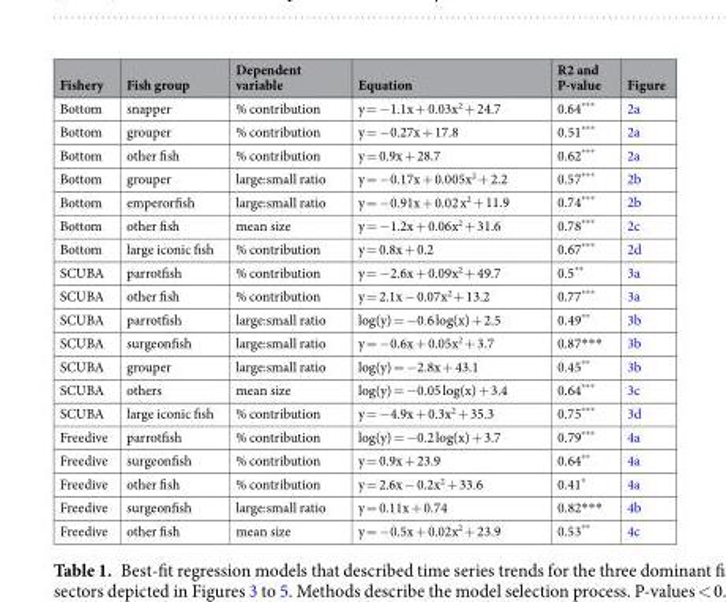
<table><thead><tr><td>Fishery</td><td>Fish group</td><td>Dependent variable</td><td>Equation</td><td>R2 and P-value</td><td>Figure</td></tr></thead><tbody><tr><td>Bottom</td><td>snapper</td><td>% contribution</td><td>y = −1.1x + 0.03x<sup>2</sup> + 24.7</td><td>0.64***</td><td>2a</td></tr><tr><td>Bottom</td><td>grouper</td><td>% contribution</td><td>y = −0.27x + 17.8</td><td>0.51***</td><td>2a</td></tr><tr><td>Bottom</td><td>other fish</td><td>% contribution</td><td>y = 0.9x + 28.7</td><td>0.62***</td><td>2a</td></tr><tr><td>Bottom</td><td>grouper</td><td>large:small ratio</td><td>y = −0.17x + 0.005x<sup>2</sup> + 2.2</td><td>0.57***</td><td>2b</td></tr><tr><td>Bottom</td><td>emperorfish</td><td>large:small ratio</td><td>y = −0.91x + 0.02 x<sup>2</sup> + 11.9</td><td>0.74***</td><td>2b</td></tr><tr><td>Bottom</td><td>other fish</td><td>mean size</td><td>y = −1.2x + 0.06x<sup>2</sup> + 31.6</td><td>0.78***</td><td>2c</td></tr><tr><td>Bottom</td><td>large iconic fish</td><td>% contribution</td><td>y = 0.8x + 0.2</td><td>0.67***</td><td>2d</td></tr><tr><td>SCUBA</td><td>parrotfish</td><td>% contribution</td><td>y = −2.6x + 0.09x<sup>2</sup> + 49.7</td><td>0.5**</td><td>3a</td></tr><tr><td>SCUBA</td><td>other fish</td><td>% contribution</td><td>y = 2.1x − 0.07x<sup>2</sup> + 13.2</td><td>0.77***</td><td>3a</td></tr><tr><td>SCUBA</td><td>parrotfish</td><td>large:small ratio</td><td>log(y) = −0.6 log(x) + 2.5</td><td>0.49**</td><td>3b</td></tr><tr><td>SCUBA</td><td>surgeonfish</td><td>large:small ratio</td><td>y = −0.6x + 0.05x<sup>2</sup> + 3.7</td><td>0.87***</td><td>3b</td></tr><tr><td>SCUBA</td><td>grouper</td><td>large:small ratio</td><td>log(y) = −2.8x + 43.1</td><td>0.45**</td><td>3b</td></tr><tr><td>SCUBA</td><td>others</td><td>mean size</td><td>log(y) = −0.05 log(x) + 3.4</td><td>0.64***</td><td>3c</td></tr><tr><td>SCUBA</td><td>large iconic fish</td><td>% contribution</td><td>y = −4.9x + 0.3x<sup>2</sup> + 35.3</td><td>0.75***</td><td>3d</td></tr><tr><td>Freedive</td><td>parrotfish</td><td>% contribution</td><td>log(y) = −0.2 log(x) + 3.7</td><td>0.79***</td><td>4a</td></tr><tr><td>Freedive</td><td>surgeonfish</td><td>% contribution</td><td>y = 0.9x + 23.9</td><td>0.64**</td><td>4a</td></tr><tr><td>Freedive</td><td>other fish</td><td>% contribution</td><td>y = 2.6x − 0.2x<sup>2</sup> + 33.6</td><td>0.41*</td><td>4a</td></tr><tr><td>Freedive</td><td>surgeonfish</td><td>large:small ratio</td><td>y = 0.11x + 0.74</td><td>0.82***</td><td>4b</td></tr><tr><td>Freedive</td><td>other fish</td><td>mean size</td><td>y = −0.5x + 0.02x<sup>2</sup> + 23.9</td><td>0.53**</td><td>4c</td></tr></tbody></table>